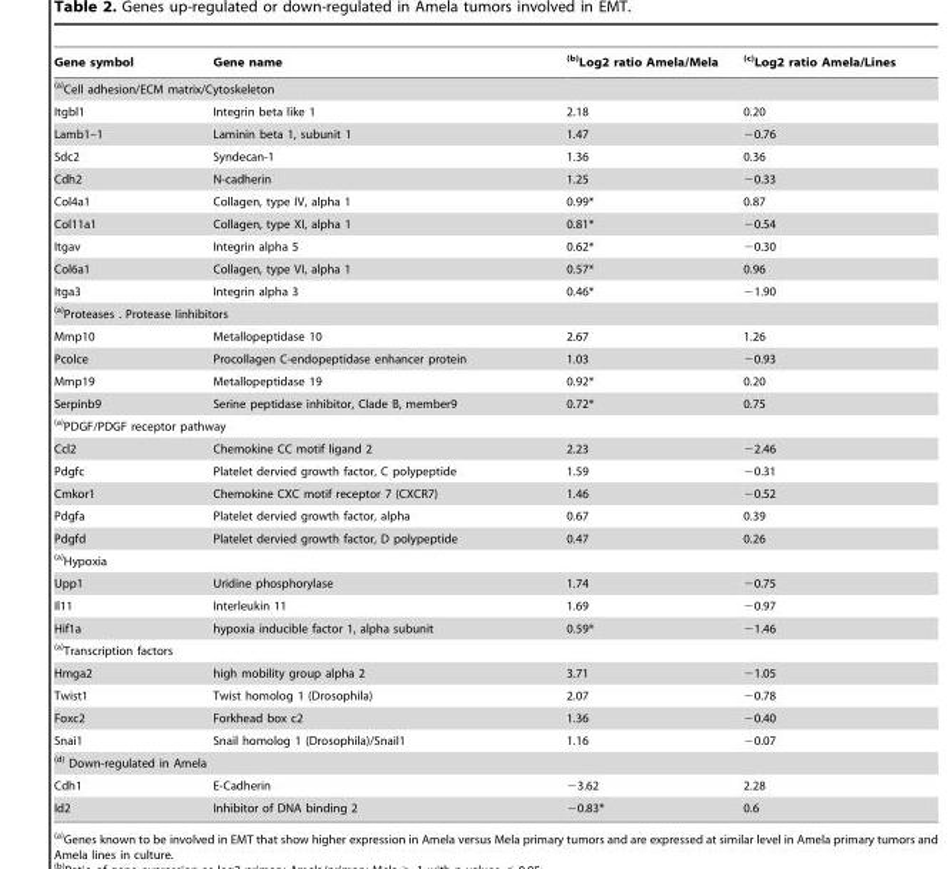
<table><thead><tr><td>Gene symbol</td><td>Gene name</td><td>(b)Log2 ratio Amela/Mela</td><td>(c)Log2 ratio Amela/Lines</td></tr></thead><tbody><tr><td colspan="4">(a)Cell adhesion/ECM matrix/Cytoskeleton</td></tr><tr><td>Itgbl1</td><td>Integrin beta like 1</td><td>2.18</td><td>0.20</td></tr><tr><td>Lamb1–1</td><td>Laminin beta 1, subunit 1</td><td>1.47</td><td>−0.76</td></tr><tr><td>Sdc2</td><td>Syndecan-1</td><td>1.36</td><td>0.36</td></tr><tr><td>Cdh2</td><td>N-cadherin</td><td>1.25</td><td>−0.33</td></tr><tr><td>Col4a1</td><td>Collagen, type IV, alpha 1</td><td>0.99*</td><td>0.87</td></tr><tr><td>Col11a1</td><td>Collagen, type XI, alpha 1</td><td>0.81*</td><td>−0.54</td></tr><tr><td>Itgav</td><td>Integrin alpha 5</td><td>0.62*</td><td>−0.30</td></tr><tr><td>Col6a1</td><td>Collagen, type VI, alpha 1</td><td>0.57*</td><td>0.96</td></tr><tr><td>Itga3</td><td>Integrin alpha 3</td><td>0.46*</td><td>−1.90</td></tr><tr><td colspan="4">(a)Proteases . Protease Iinhibitors</td></tr><tr><td>Mmp10</td><td>Metallopeptidase 10</td><td>2.67</td><td>1.26</td></tr><tr><td>Pcolce</td><td>Procollagen C-endopeptidase enhancer protein</td><td>1.03</td><td>−0.93</td></tr><tr><td>Mmp19</td><td>Metallopeptidase 19</td><td>0.92*</td><td>0.20</td></tr><tr><td>Serpinb9</td><td>Serine peptidase inhibitor, Clade B, member9</td><td>0.72*</td><td>0.75</td></tr><tr><td colspan="4">(a)PDGF/PDGF receptor pathway</td></tr><tr><td>Ccl2</td><td>Chemokine CC motif ligand 2</td><td>2.23</td><td>−2.46</td></tr><tr><td>Pdgfc</td><td>Platelet dervied growth factor, C polypeptide</td><td>1.59</td><td>−0.31</td></tr><tr><td>Cmkor1</td><td>Chemokine CXC motif receptor 7 (CXCR7)</td><td>1.46</td><td>−0.52</td></tr><tr><td>Pdgfa</td><td>Platelet dervied growth factor, alpha</td><td>0.67</td><td>0.39</td></tr><tr><td>Pdgfd</td><td>Platelet dervied growth factor, D polypeptide</td><td>0.47</td><td>0.26</td></tr><tr><td colspan="4">(a)Hypoxia</td></tr><tr><td>Upp1</td><td>Uridine phosphorylase</td><td>1.74</td><td>−0.75</td></tr><tr><td>Il11</td><td>Interleukin 11</td><td>1.69</td><td>−0.97</td></tr><tr><td>Hif1a</td><td>hypoxia inducible factor 1, alpha subunit</td><td>0.59*</td><td>−1.46</td></tr><tr><td colspan="4">(a)Transcription factors</td></tr><tr><td>Hmga2</td><td>high mobility group alpha 2</td><td>3.71</td><td>−1.05</td></tr><tr><td>Twist1</td><td>Twist homolog 1 (Drosophila)</td><td>2.07</td><td>−0.78</td></tr><tr><td>Foxc2</td><td>Forkhead box c2</td><td>1.36</td><td>−0.40</td></tr><tr><td>Snai1</td><td>Snail homolog 1 (Drosophila)/Snail1</td><td>1.16</td><td>−0.07</td></tr><tr><td colspan="4">(d) Down-regulated in Amela</td></tr><tr><td>Cdh1</td><td>E-Cadherin</td><td>−3.62</td><td>2.28</td></tr><tr><td>Id2</td><td>Inhibitor of DNA binding 2</td><td>−0.83*</td><td>0.6</td></tr></tbody></table>